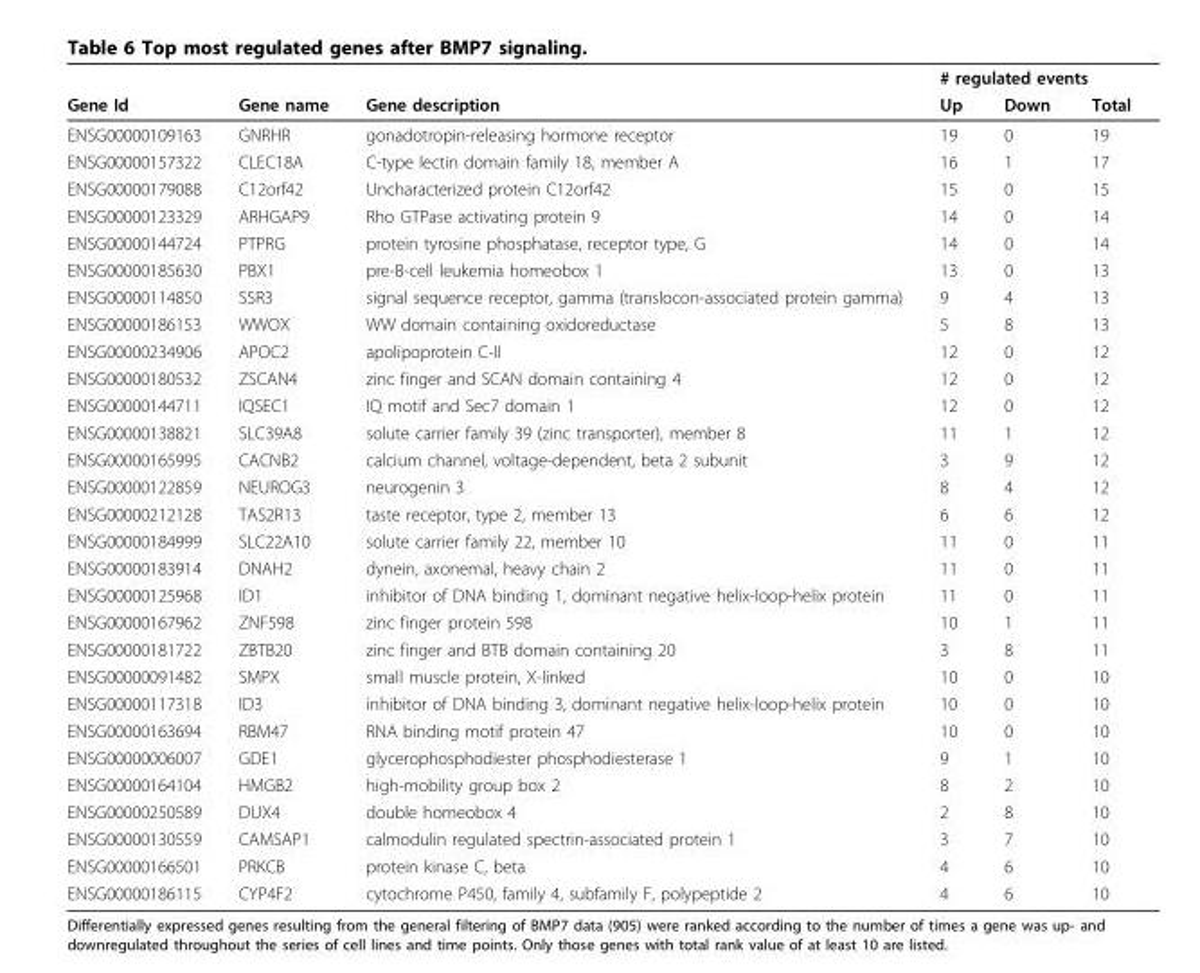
<table><thead><tr><td rowspan="2">Gene Id</td><td rowspan="2">Gene name</td><td rowspan="2">Gene description</td><td colspan="3"># regulated events</td></tr><tr><td>Up</td><td>Down</td><td>Total</td></tr></thead><tbody><tr><td>ENSG00000109163</td><td>GNRHR</td><td>gonadotropin-releasing hormone receptor</td><td>19</td><td>0</td><td>19</td></tr><tr><td>ENSG00000157322</td><td>CLEC18A</td><td>C-type lectin domain family 18, member A</td><td>16</td><td>1</td><td>17</td></tr><tr><td>ENSG00000179088</td><td>C12orf42</td><td>Uncharacterized protein C12orf42</td><td>15</td><td>0</td><td>15</td></tr><tr><td>ENSG00000123329</td><td>ARHGAP9</td><td>Rho GTPase activating protein 9</td><td>14</td><td>0</td><td>14</td></tr><tr><td>ENSG00000144724</td><td>PTPRG</td><td>protein tyrosine phosphatase, receptor type, G</td><td>14</td><td>0</td><td>14</td></tr><tr><td>ENSG00000185630</td><td>PBX1</td><td>pre-B-cell leukemia homeobox 1</td><td>13</td><td>0</td><td>13</td></tr><tr><td>ENSG00000114850</td><td>SSR3</td><td>signal sequence receptor, gamma (translocon-associated protein gamma)</td><td>9</td><td>4</td><td>13</td></tr><tr><td>ENSG00000186153</td><td>WWOX</td><td>WW domain containing oxidoreductase</td><td>5</td><td>8</td><td>13</td></tr><tr><td>ENSG00000234906</td><td>APOC2</td><td>apolipoprotein C-II</td><td>12</td><td>0</td><td>12</td></tr><tr><td>ENSG00000180532</td><td>ZSCAN4</td><td>zinc finger and SCAN domain containing 4</td><td>12</td><td>0</td><td>12</td></tr><tr><td>ENSG00000144711</td><td>IQSEC1</td><td>IQ motif and Sec7 domain 1</td><td>12</td><td>0</td><td>12</td></tr><tr><td>ENSG00000138821</td><td>SLC39A8</td><td>solute carrier family 39 (zinc transporter), member 8</td><td>11</td><td>1</td><td>12</td></tr><tr><td>ENSG00000165995</td><td>CACNB2</td><td>calcium channel, voltage-dependent, beta 2 subunit</td><td>3</td><td>9</td><td>12</td></tr><tr><td>ENSG00000122859</td><td>NEUROG3</td><td>neurogenin 3</td><td>8</td><td>4</td><td>12</td></tr><tr><td>ENSG00000212128</td><td>TAS2R13</td><td>taste receptor, type 2, member 13</td><td>6</td><td>6</td><td>12</td></tr><tr><td>ENSG00000184999</td><td>SLC22A10</td><td>solute carrier family 22, member 10</td><td>11</td><td>0</td><td>11</td></tr><tr><td>ENSG00000183914</td><td>DNAH2</td><td>dynein, axonemal, heavy chain 2</td><td>11</td><td>0</td><td>11</td></tr><tr><td>ENSG00000125968</td><td>ID1</td><td>inhibitor of DNA binding 1, dominant negative helix-loop-helix protein</td><td>11</td><td>0</td><td>11</td></tr><tr><td>ENSG00000167962</td><td>ZNF598</td><td>zinc finger protein 598</td><td>10</td><td>1</td><td>11</td></tr><tr><td>ENSG00000181722</td><td>ZBTB20</td><td>zinc finger and BTB domain containing 20</td><td>3</td><td>8</td><td>11</td></tr><tr><td>ENSG00000091482</td><td>SMPX</td><td>small muscle protein, X-linked</td><td>10</td><td>0</td><td>10</td></tr><tr><td>ENSG00000117318</td><td>ID3</td><td>inhibitor of DNA binding 3, dominant negative helix-loop-helix protein</td><td>10</td><td>0</td><td>10</td></tr><tr><td>ENSG00000163694</td><td>RBM47</td><td>RNA binding motif protein 47</td><td>10</td><td>0</td><td>10</td></tr><tr><td>ENSG00000006007</td><td>GDE1</td><td>glycerophosphodiester phosphodiesterase 1</td><td>9</td><td>1</td><td>10</td></tr><tr><td>ENSG00000164104</td><td>HMGB2</td><td>high-mobility group box 2</td><td>8</td><td>2</td><td>10</td></tr><tr><td>ENSG00000250589</td><td>DUX4</td><td>double homeobox 4</td><td>2</td><td>8</td><td>10</td></tr><tr><td>ENSG00000130559</td><td>CAMSAP1</td><td>calmodulin regulated spectrin-associated protein 1</td><td>3</td><td>7</td><td>10</td></tr><tr><td>ENSG00000166501</td><td>PRKCB</td><td>protein kinase C, beta</td><td>4</td><td>6</td><td>10</td></tr><tr><td>ENSG00000186115</td><td>CYP4F2</td><td>cytochrome P450, family 4, subfamily F, polypeptide 2</td><td>4</td><td>6</td><td>10</td></tr></tbody></table>